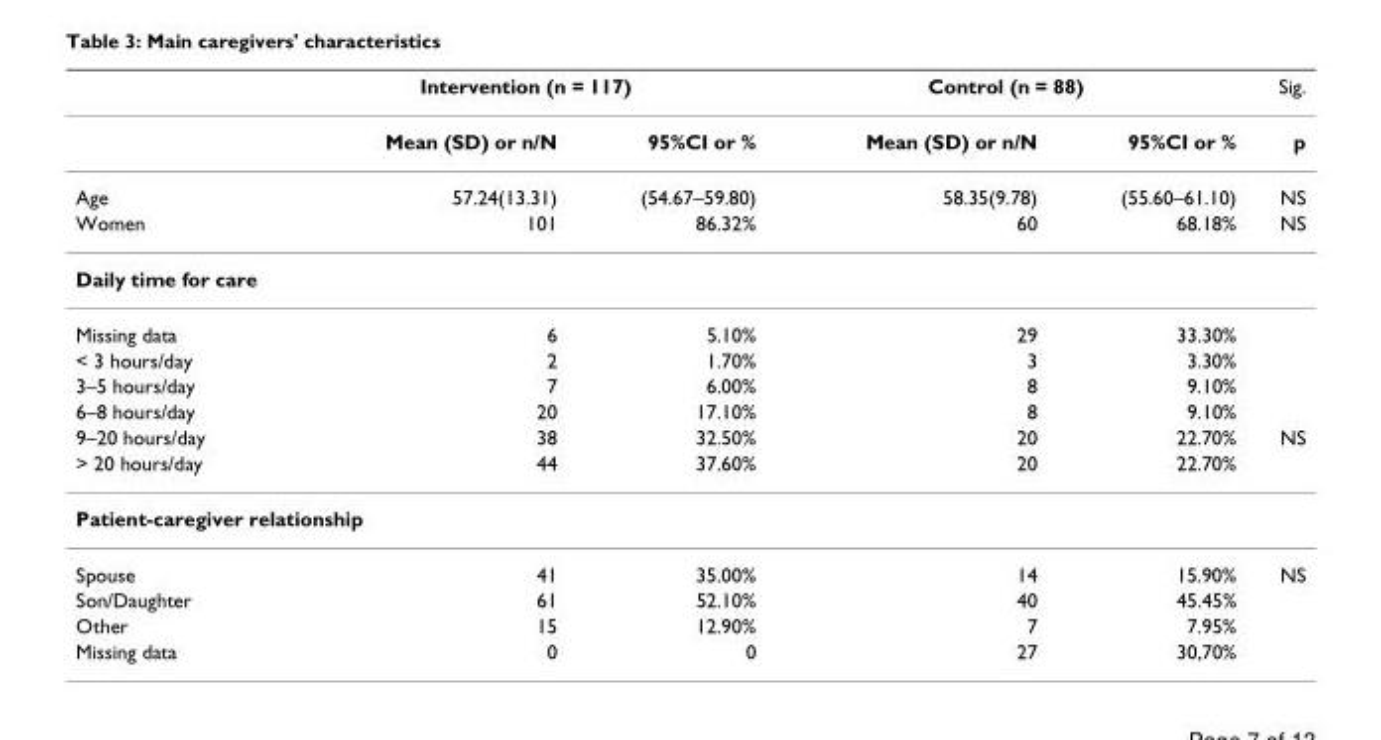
<table><thead><tr><td rowspan="2"></td><td colspan="2">Intervention (n = 117)</td><td colspan="2">Control (n = 88)</td><td rowspan="2">Sig. p</td></tr><tr><td>Mean (SD) or n/N</td><td>95%CI or %</td><td>Mean (SD) or n/N</td><td>95%CI or %</td></tr></thead><tbody><tr><td>Age</td><td>57.24(13.31)</td><td>(54.67–59.80)</td><td>58.35(9.78)</td><td>(55.60–61.10)</td><td>NS</td></tr><tr><td>Women</td><td>101</td><td>86.32%</td><td>60</td><td>68.18%</td><td>NS</td></tr><tr><td colspan="6">Daily time for care</td></tr><tr><td>Missing data</td><td>6</td><td>5.10%</td><td>29</td><td>33.30%</td><td></td></tr><tr><td>&lt; 3 hours/day</td><td>2</td><td>1.70%</td><td>3</td><td>3.30%</td><td></td></tr><tr><td>3–5 hours/day</td><td>7</td><td>6.00%</td><td>8</td><td>9.10%</td><td></td></tr><tr><td>6–8 hours/day</td><td>20</td><td>17.10%</td><td>8</td><td>9.10%</td><td></td></tr><tr><td>9–20 hours/day</td><td>38</td><td>32.50%</td><td>20</td><td>22.70%</td><td>NS</td></tr><tr><td>&gt; 20 hours/day</td><td>44</td><td>37.60%</td><td>20</td><td>22.70%</td><td></td></tr><tr><td colspan="6">Patient-caregiver relationship</td></tr><tr><td>Spouse</td><td>41</td><td>35.00%</td><td>14</td><td>15.90%</td><td>NS</td></tr><tr><td>Son/Daughter</td><td>61</td><td>52.10%</td><td>40</td><td>45.45%</td><td></td></tr><tr><td>Other</td><td>15</td><td>12.90%</td><td>7</td><td>7.95%</td><td></td></tr><tr><td>Missing data</td><td>0</td><td>0</td><td>27</td><td>30,70%</td><td></td></tr></tbody></table>